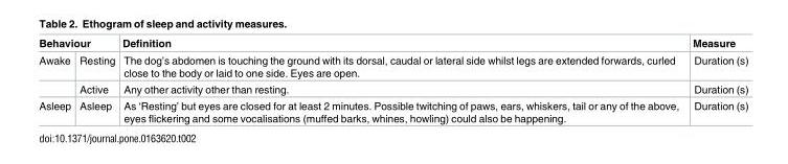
<table><thead><tr><td colspan="2">Behaviour</td><td rowspan="2">Definition The dog’s abdomen is touching the ground with its dorsal, caudal or lateral side whilst legs are extended forwards, curled close to the body or laid to one side. Eyes are open.</td><td rowspan="2">Measure Duration (s)</td></tr><tr><td>Awake</td><td>Resting</td></tr></thead><tbody><tr><td></td><td>Active</td><td>Any other activity other than resting.</td><td>Duration (s)</td></tr><tr><td>Asleep</td><td>Asleep</td><td>As ‘Resting’ but eyes are closed for at least 2 minutes. Possible twitching of paws, ears, whiskers, tail or any of the above, eyes flickering and some vocalisations (muffed barks, whines, howling) could also be happening.</td><td>Duration (s)</td></tr></tbody></table>